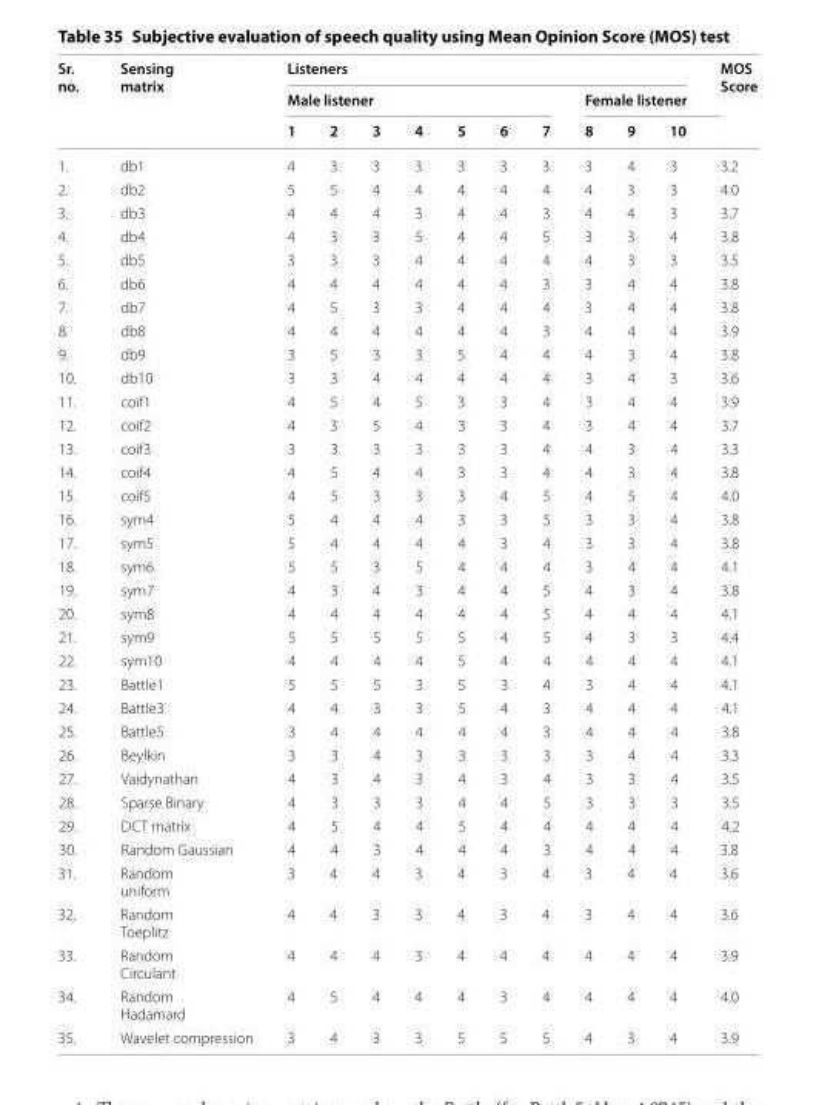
<table><thead><tr><td rowspan="3">Sr. no.</td><td rowspan="3">Sensing matrix</td><td colspan="10">Listeners</td><td rowspan="3">MOS Score</td></tr><tr><td colspan="7">Male listener</td><td colspan="3">Female listener</td></tr><tr><td>1</td><td>2</td><td>3</td><td>4</td><td>5</td><td>6</td><td>7</td><td>8</td><td>9</td><td>10</td></tr></thead><tbody><tr><td>1.</td><td>db1</td><td>4</td><td>3</td><td>3</td><td>3</td><td>3</td><td>3</td><td>3</td><td>3</td><td>4</td><td>3</td><td>3.2</td></tr><tr><td>2.</td><td>db2</td><td>5</td><td>5</td><td>4</td><td>4</td><td>4</td><td>4</td><td>4</td><td>4</td><td>3</td><td>3</td><td>4.0</td></tr><tr><td>3.</td><td>db3</td><td>4</td><td>4</td><td>4</td><td>3</td><td>4</td><td>4</td><td>3</td><td>4</td><td>4</td><td>3</td><td>3.7</td></tr><tr><td>4.</td><td>db4</td><td>4</td><td>3</td><td>3</td><td>5</td><td>4</td><td>4</td><td>5</td><td>3</td><td>3</td><td>4</td><td>3.8</td></tr><tr><td>5.</td><td>db5</td><td>3</td><td>3</td><td>3</td><td>4</td><td>4</td><td>4</td><td>4</td><td>4</td><td>3</td><td>3</td><td>3.5</td></tr><tr><td>6.</td><td>db6</td><td>4</td><td>4</td><td>4</td><td>4</td><td>4</td><td>4</td><td>3</td><td>3</td><td>4</td><td>4</td><td>3.8</td></tr><tr><td>7.</td><td>db7</td><td>4</td><td>5</td><td>3</td><td>3</td><td>4</td><td>4</td><td>4</td><td>3</td><td>4</td><td>4</td><td>3.8</td></tr><tr><td>8.</td><td>db8</td><td>4</td><td>4</td><td>4</td><td>4</td><td>4</td><td>4</td><td>3</td><td>4</td><td>4</td><td>4</td><td>3.9</td></tr><tr><td>9.</td><td>db9</td><td>3</td><td>5</td><td>3</td><td>3</td><td>5</td><td>4</td><td>4</td><td>4</td><td>3</td><td>4</td><td>3.8</td></tr><tr><td>10.</td><td>db10</td><td>3</td><td>3</td><td>4</td><td>4</td><td>4</td><td>4</td><td>4</td><td>3</td><td>4</td><td>3</td><td>3.6</td></tr><tr><td>11.</td><td>coif1</td><td>4</td><td>5</td><td>4</td><td>5</td><td>3</td><td>3</td><td>4</td><td>3</td><td>4</td><td>4</td><td>3.9</td></tr><tr><td>12.</td><td>coif2</td><td>4</td><td>3</td><td>5</td><td>4</td><td>3</td><td>3</td><td>4</td><td>3</td><td>4</td><td>4</td><td>3.7</td></tr><tr><td>13.</td><td>coif3</td><td>3</td><td>3</td><td>3</td><td>3</td><td>3</td><td>3</td><td>4</td><td>4</td><td>3</td><td>4</td><td>3.3</td></tr><tr><td>14.</td><td>coif4</td><td>4</td><td>5</td><td>4</td><td>4</td><td>3</td><td>3</td><td>4</td><td>4</td><td>3</td><td>4</td><td>3.8</td></tr><tr><td>15.</td><td>coif5</td><td>4</td><td>5</td><td>3</td><td>3</td><td>3</td><td>4</td><td>5</td><td>4</td><td>5</td><td>4</td><td>4.0</td></tr><tr><td>16.</td><td>sym4</td><td>5</td><td>4</td><td>4</td><td>4</td><td>3</td><td>3</td><td>5</td><td>3</td><td>3</td><td>4</td><td>3.8</td></tr><tr><td>17.</td><td>sym5</td><td>5</td><td>4</td><td>4</td><td>4</td><td>4</td><td>3</td><td>4</td><td>3</td><td>3</td><td>4</td><td>3.8</td></tr><tr><td>18.</td><td>sym6</td><td>5</td><td>5</td><td>3</td><td>5</td><td>4</td><td>4</td><td>4</td><td>3</td><td>4</td><td>4</td><td>4.1</td></tr><tr><td>19.</td><td>sym7</td><td>4</td><td>3</td><td>4</td><td>3</td><td>4</td><td>4</td><td>5</td><td>4</td><td>3</td><td>4</td><td>3.8</td></tr><tr><td>20.</td><td>sym8</td><td>4</td><td>4</td><td>4</td><td>4</td><td>4</td><td>4</td><td>5</td><td>4</td><td>4</td><td>4</td><td>4.1</td></tr><tr><td>21.</td><td>sym9</td><td>5</td><td>5</td><td>5</td><td>5</td><td>5</td><td>4</td><td>5</td><td>4</td><td>3</td><td>3</td><td>4.4</td></tr><tr><td>22.</td><td>sym10</td><td>4</td><td>4</td><td>4</td><td>4</td><td>5</td><td>4</td><td>4</td><td>4</td><td>4</td><td>4</td><td>4.1</td></tr><tr><td>23.</td><td>Battle1</td><td>5</td><td>5</td><td>5</td><td>3</td><td>5</td><td>3</td><td>4</td><td>3</td><td>4</td><td>4</td><td>4.1</td></tr><tr><td>24.</td><td>Battle3</td><td>4</td><td>4</td><td>3</td><td>3</td><td>5</td><td>4</td><td>3</td><td>4</td><td>4</td><td>4</td><td>4.1</td></tr><tr><td>25.</td><td>Battle5</td><td>3</td><td>4</td><td>4</td><td>4</td><td>4</td><td>4</td><td>3</td><td>4</td><td>4</td><td>4</td><td>3.8</td></tr><tr><td>26.</td><td>Beylkin</td><td>3</td><td>3</td><td>4</td><td>3</td><td>3</td><td>3</td><td>3</td><td>3</td><td>4</td><td>4</td><td>3.3</td></tr><tr><td>27.</td><td>Vaidynathan</td><td>4</td><td>3</td><td>4</td><td>3</td><td>4</td><td>3</td><td>4</td><td>3</td><td>3</td><td>4</td><td>3.5</td></tr><tr><td>28.</td><td>Sparse Binary</td><td>4</td><td>3</td><td>3</td><td>3</td><td>4</td><td>4</td><td>5</td><td>3</td><td>3</td><td>3</td><td>3.5</td></tr><tr><td>29.</td><td>DCT matrix</td><td>4</td><td>5</td><td>4</td><td>4</td><td>5</td><td>4</td><td>4</td><td>4</td><td>4</td><td>4</td><td>4.2</td></tr><tr><td>30.</td><td>Random Gaussian</td><td>4</td><td>4</td><td>3</td><td>4</td><td>4</td><td>4</td><td>3</td><td>4</td><td>4</td><td>4</td><td>3.8</td></tr><tr><td>31.</td><td>Random uniform</td><td>3</td><td>4</td><td>4</td><td>3</td><td>4</td><td>3</td><td>4</td><td>3</td><td>4</td><td>4</td><td>3.6</td></tr><tr><td>32.</td><td>Random Toeplitz</td><td>4</td><td>4</td><td>3</td><td>3</td><td>4</td><td>3</td><td>4</td><td>3</td><td>4</td><td>4</td><td>3.6</td></tr><tr><td>33.</td><td>Random Circulant</td><td>4</td><td>4</td><td>4</td><td>3</td><td>4</td><td>4</td><td>4</td><td>4</td><td>4</td><td>4</td><td>3.9</td></tr><tr><td>34.</td><td>Random Hadamard</td><td>4</td><td>5</td><td>4</td><td>4</td><td>4</td><td>3</td><td>4</td><td>4</td><td>4</td><td>4</td><td>4.0</td></tr><tr><td>35.</td><td>Wavelet compression</td><td>3</td><td>4</td><td>3</td><td>3</td><td>5</td><td>5</td><td>5</td><td>4</td><td>3</td><td>4</td><td>3.9</td></tr></tbody></table>